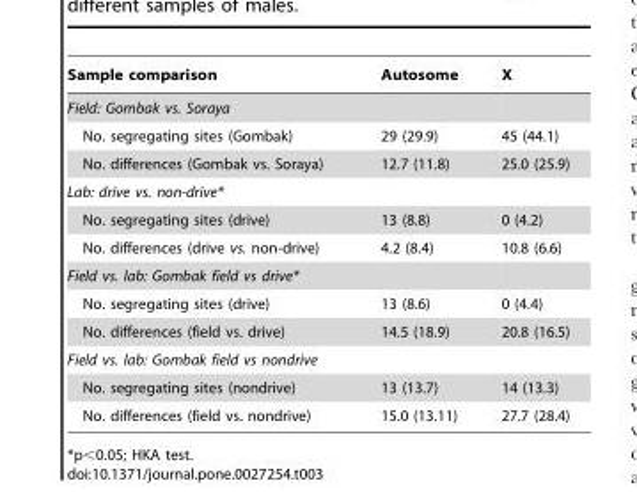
<table><thead><tr><td>Sample comparison</td><td>Autosome</td><td>X</td></tr></thead><tbody><tr><td colspan="3">Field: Gombak vs. Soraya</td></tr><tr><td>No. segregating sites (Gombak)</td><td>29 (29.9)</td><td>45 (44.1)</td></tr><tr><td>No. differences (Gombak vs. Soraya)</td><td>12.7 (11.8)</td><td>25.0 (25.9)</td></tr><tr><td colspan="3">Lab: drive vs. non-drive*</td></tr><tr><td>No. segregating sites (drive)</td><td>13 (8.8)</td><td>0 (4.2)</td></tr><tr><td>No. differences (drive vs. non-drive)</td><td>4.2 (8.4)</td><td>10.8 (6.6)</td></tr><tr><td colspan="3">Field vs. lab: Gombak field vs drive*</td></tr><tr><td>No. segregating sites (drive)</td><td>13 (8.6)</td><td>0 (4.4)</td></tr><tr><td>No. differences (field vs. drive)</td><td>14.5 (18.9)</td><td>20.8 (16.5)</td></tr><tr><td colspan="3">Field vs. lab: Gombak field vs nondrive</td></tr><tr><td>No. segregating sites (nondrive)</td><td>13 (13.7)</td><td>14 (13.3)</td></tr><tr><td>No. differences (field vs. nondrive)</td><td>15.0 (13.11)</td><td>27.7 (28.4)</td></tr></tbody></table>